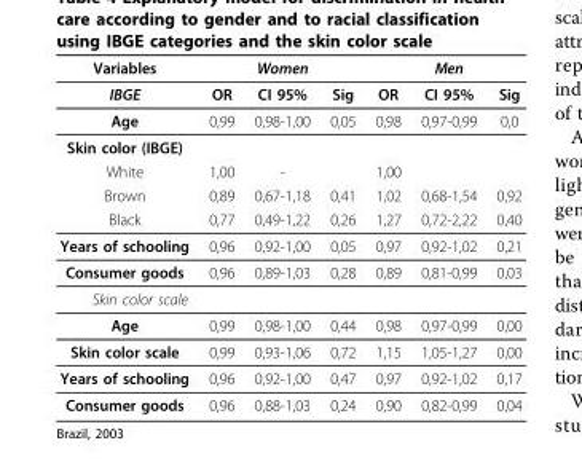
<table><thead><tr><td rowspan="2">Variables IBGE</td><td colspan="3">Women</td><td colspan="3">Men</td></tr><tr><td>OR</td><td>CI 95%</td><td>Sig</td><td>OR</td><td>CI 95%</td><td>Sig</td></tr></thead><tbody><tr><td>Age</td><td>0,99</td><td>0,98-1,00</td><td>0,05</td><td>0,98</td><td>0,97-0,99</td><td>0,0</td></tr><tr><td colspan="7">Skin color (IBGE)</td></tr><tr><td>White</td><td>1,00</td><td>-</td><td></td><td>1,00</td><td></td><td></td></tr><tr><td>Brown</td><td>0,89</td><td>0,67-1,18</td><td>0,41</td><td>1,02</td><td>0,68-1,54</td><td>0,92</td></tr><tr><td>Black</td><td>0,77</td><td>0,49-1,22</td><td>0,26</td><td>1,27</td><td>0,72-2,22</td><td>0,40</td></tr><tr><td>Years of schooling</td><td>0,96</td><td>0,92-1,00</td><td>0,05</td><td>0,97</td><td>0,92-1,02</td><td>0,21</td></tr><tr><td>Consumer goods</td><td>0,96</td><td>0,89-1,03</td><td>0,28</td><td>0,89</td><td>0,81-0,99</td><td>0,03</td></tr><tr><td colspan="7">Skin color scale</td></tr><tr><td>Age</td><td>0,99</td><td>0,98-1,00</td><td>0,44</td><td>0,98</td><td>0,97-0,99</td><td>0,00</td></tr><tr><td>Skin color scale</td><td>0,99</td><td>0,93-1,06</td><td>0,72</td><td>1,15</td><td>1,05-1,27</td><td>0,00</td></tr><tr><td>Years of schooling</td><td>0,96</td><td>0,92-1,00</td><td>0,47</td><td>0,97</td><td>0,92-1,02</td><td>0,17</td></tr><tr><td>Consumer goods</td><td>0,96</td><td>0,88-1,03</td><td>0,24</td><td>0,90</td><td>0,82-0,99</td><td>0,04</td></tr></tbody></table>